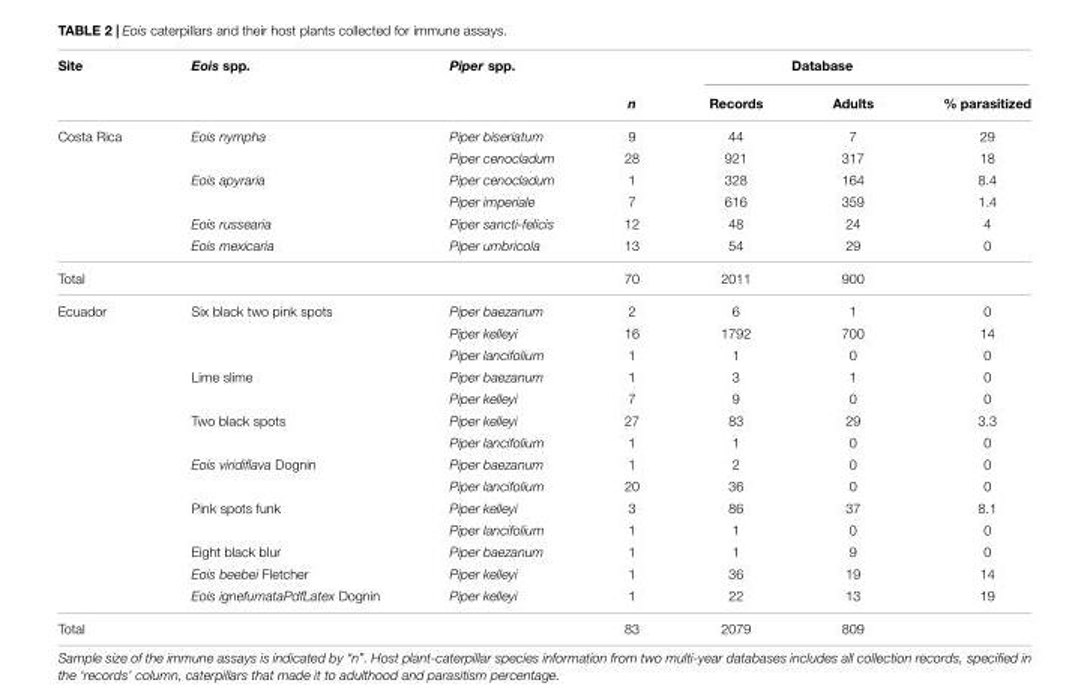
<table><thead><tr><td rowspan="2">Site</td><td rowspan="2">Eois spp.</td><td rowspan="2">Piper spp.</td><td rowspan="2">n</td><td colspan="3">Database</td></tr><tr><td>Records</td><td>Adults</td><td>% parasitized</td></tr></thead><tbody><tr><td rowspan="6">Costa Rica</td><td>Eois nympha</td><td>Piper biseriatum</td><td>9</td><td>44</td><td>7</td><td>29</td></tr><tr><td></td><td>Piper cenocladum</td><td>28</td><td>921</td><td>317</td><td>18</td></tr><tr><td>Eois apyraria</td><td>Piper cenocladum</td><td>1</td><td>328</td><td>164</td><td>8.4</td></tr><tr><td></td><td>Piper imperiale</td><td>7</td><td>616</td><td>359</td><td>1.4</td></tr><tr><td>Eois russearia</td><td>Piper sancti-felicis</td><td>12</td><td>48</td><td>24</td><td>4</td></tr><tr><td>Eois mexicaria</td><td>Piper umbricola</td><td>13</td><td>54</td><td>29</td><td>0</td></tr><tr><td>Total</td><td></td><td></td><td>70</td><td>2011</td><td>900</td><td></td></tr><tr><td rowspan="14">Ecuador</td><td>Six black two pink spots</td><td>Piper baezanum</td><td>2</td><td>6</td><td>1</td><td>0</td></tr><tr><td></td><td>Piper kelleyi</td><td>16</td><td>1792</td><td>700</td><td>14</td></tr><tr><td></td><td>Piper lancifolium</td><td>1</td><td>1</td><td>0</td><td>0</td></tr><tr><td>Lime slime</td><td>Piper baezanum</td><td>1</td><td>3</td><td>1</td><td>0</td></tr><tr><td></td><td>Piper kelleyi</td><td>7</td><td>9</td><td>0</td><td>0</td></tr><tr><td>Two black spots</td><td>Piper kelleyi</td><td>27</td><td>83</td><td>29</td><td>3.3</td></tr><tr><td></td><td>Piper lancifolium</td><td>1</td><td>1</td><td>0</td><td>0</td></tr><tr><td>Eois viridiflava Dognin</td><td>Piper baezanum</td><td>1</td><td>2</td><td>0</td><td>0</td></tr><tr><td></td><td>Piper lancifolium</td><td>20</td><td>36</td><td>0</td><td>0</td></tr><tr><td>Pink spots funk</td><td>Piper kelleyi</td><td>3</td><td>86</td><td>37</td><td>8.1</td></tr><tr><td></td><td>Piper lancifolium</td><td>1</td><td>1</td><td>0</td><td>0</td></tr><tr><td>Eight black blur</td><td>Piper baezanum</td><td>1</td><td>1</td><td>9</td><td>0</td></tr><tr><td>Eois beebei Fletcher</td><td>Piper kelleyi</td><td>1</td><td>36</td><td>19</td><td>14</td></tr><tr><td>Eois ignefumataPdfLatex Dognin</td><td>Piper kelleyi</td><td>1</td><td>22</td><td>13</td><td>19</td></tr><tr><td>Total</td><td></td><td></td><td>83</td><td>2079</td><td>809</td><td></td></tr></tbody></table>